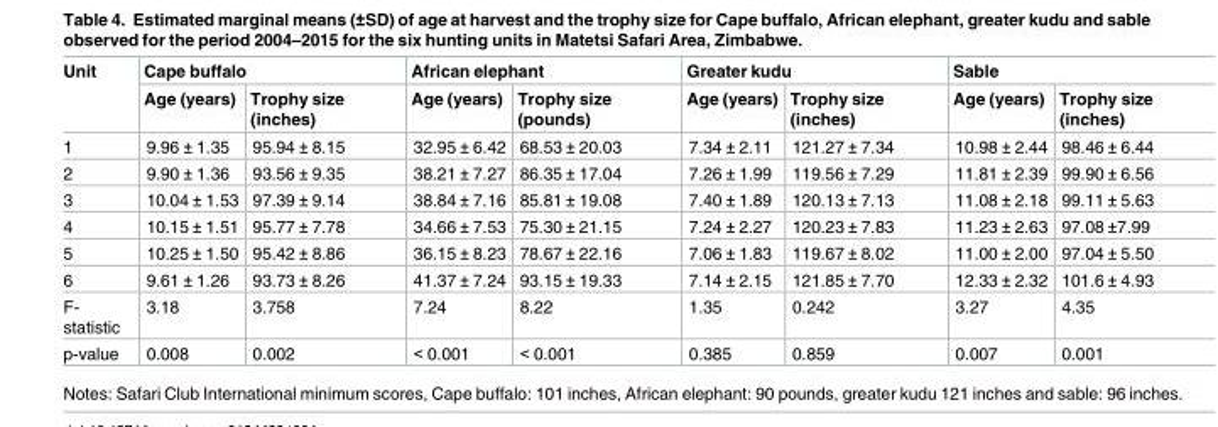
<table><thead><tr><td rowspan="2">Unit</td><td colspan="2">Cape buffalo</td><td colspan="2">African elephant</td><td colspan="2">Greater kudu</td><td colspan="2">Sable</td></tr><tr><td>Age (years)</td><td>Trophy size (inches)</td><td>Age (years)</td><td>Trophy size (pounds)</td><td>Age (years)</td><td>Trophy size (inches)</td><td>Age (years)</td><td>Trophy size (inches)</td></tr></thead><tbody><tr><td>1</td><td>9.96 ± 1.35</td><td>95.94 ± 8.15</td><td>32.95 ± 6.42</td><td>68.53 ± 20.03</td><td>7.34 ± 2.11</td><td>121.27 ± 7.34</td><td>10.98 ± 2.44</td><td>98.46 ± 6.44</td></tr><tr><td>2</td><td>9.90 ± 1.36</td><td>93.56 ± 9.35</td><td>38.21 ± 7.27</td><td>86.35 ± 17.04</td><td>7.26 ± 1.99</td><td>119.56 ± 7.29</td><td>11.81 ± 2.39</td><td>99.90 ± 6.56</td></tr><tr><td>3</td><td>10.04 ± 1.53</td><td>97.39 ± 9.14</td><td>38.84 ± 7.16</td><td>85.81 ± 19.08</td><td>7.40 ± 1.89</td><td>120.13 ± 7.13</td><td>11.08 ± 2.18</td><td>99.11 ± 5.63</td></tr><tr><td>4</td><td>10.15 ± 1.51</td><td>95.77 ± 7.78</td><td>34.66 ± 7.53</td><td>75.30 ± 21.15</td><td>7.24 ± 2.27</td><td>120.23 ± 7.83</td><td>11.23 ± 2.63</td><td>97.08 ±7.99</td></tr><tr><td>5</td><td>10.25 ± 1.50</td><td>95.42 ± 8.86</td><td>36.15 ± 8.23</td><td>78.67 ± 22.16</td><td>7.06 ± 1.83</td><td>119.67 ± 8.02</td><td>11.00 ± 2.00</td><td>97.04 ± 5.50</td></tr><tr><td>6</td><td>9.61 ± 1.26</td><td>93.73 ± 8.26</td><td>41.37 ± 7.24</td><td>93.15 ± 19.33</td><td>7.14 ± 2.15</td><td>121.85 ± 7.70</td><td>12.33 ± 2.32</td><td>101.6 ± 4.93</td></tr><tr><td>F- statistic</td><td>3.18</td><td>3.758</td><td>7.24</td><td>8.22</td><td>1.35</td><td>0.242</td><td>3.27</td><td>4.35</td></tr><tr><td>p-value</td><td>0.008</td><td>0.002</td><td>&lt; 0.001</td><td>&lt; 0.001</td><td>0.385</td><td>0.859</td><td>0.007</td><td>0.001</td></tr></tbody></table>